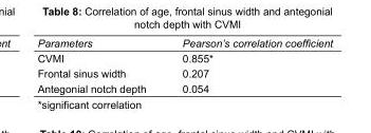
<table><tbody><tr><td>Parameters</td><td>Pearson’s correlation coefficient</td></tr><tr><td>CVMI</td><td>0.855*</td></tr><tr><td>Frontal sinus width</td><td>0.207</td></tr><tr><td>Antegonial notch depth</td><td>0.054</td></tr></tbody></table>